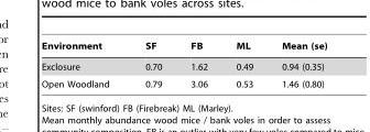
<table><thead><tr><td>Environment</td><td>SF</td><td>FB</td><td>ML</td><td>Mean (se)</td></tr></thead><tbody><tr><td>Exclosure</td><td>0.70</td><td>1.62</td><td>0.49</td><td>0.94 (0.35)</td></tr><tr><td>Open Woodland</td><td>0.79</td><td>3.06</td><td>0.53</td><td>1.46 (0.80)</td></tr></tbody></table>